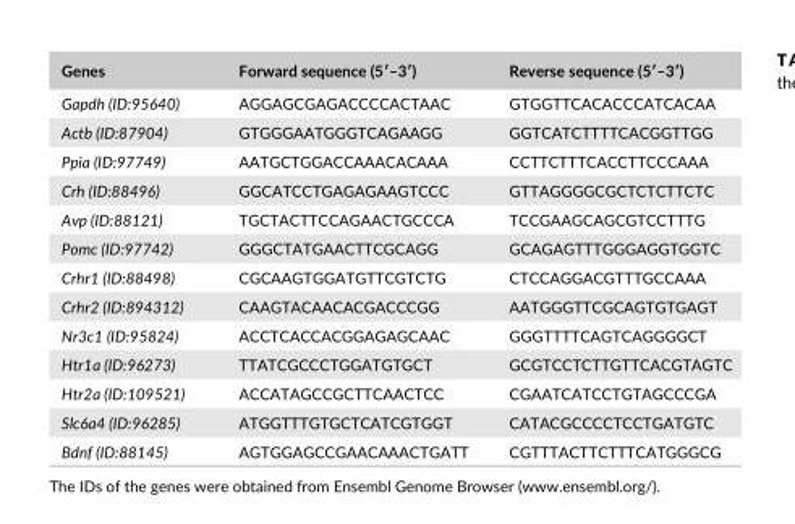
<table><thead><tr><td>Genes</td><td>Forward sequence (5′–3′)</td><td>Reverse sequence (5′–3′)</td></tr></thead><tbody><tr><td>Gapdh (ID:95640)</td><td>AGGAGCGAGACCCCACTAAC</td><td>GTGGTTCACACCCATCACAA</td></tr><tr><td>Actb (ID:87904)</td><td>GTGGGAATGGGTCAGAAGG</td><td>GGTCATCTTTTCACGGTTGG</td></tr><tr><td>Ppia (ID:97749)</td><td>AATGCTGGACCAAACACAAA</td><td>CCTTCTTTCACCTTCCCAAA</td></tr><tr><td>Crh (ID:88496)</td><td>GGCATCCTGAGAGAAGTCCC</td><td>GTTAGGGGCGCTCTCTTCTC</td></tr><tr><td>Avp (ID:88121)</td><td>TGCTACTTCCAGAACTGCCCA</td><td>TCCGAAGCAGCGTCCTTTG</td></tr><tr><td>Pomc (ID:97742)</td><td>GGGCTATGAACTTCGCAGG</td><td>GCAGAGTTTGGGAGGTGGTC</td></tr><tr><td>Crhr1 (ID:88498)</td><td>CGCAAGTGGATGTTCGTCTG</td><td>CTCCAGGACGTTTGCCAAA</td></tr><tr><td>Crhr2 (ID:894312)</td><td>CAAGTACAACACGACCCGG</td><td>AATGGGTTCGCAGTGTGAGT</td></tr><tr><td>Nr3c1 (ID:95824)</td><td>ACCTCACCACGGAGAGCAAC</td><td>GGGTTTTCAGTCAGGGGCT</td></tr><tr><td>Htr1a (ID:96273)</td><td>TTATCGCCCTGGATGTGCT</td><td>GCGTCCTCTTGTTCACGTAGTC</td></tr><tr><td>Htr2a (ID:109521)</td><td>ACCATAGCCGCTTCAACTCC</td><td>CGAATCATCCTGTAGCCCGA</td></tr><tr><td>Slc6a4 (ID:96285)</td><td>ATGGTTTGTGCTCATCGTGGT</td><td>CATACGCCCCTCCTGATGTC</td></tr><tr><td>Bdnf (ID:88145)</td><td>AGTGGAGCCGAACAAACTGATT</td><td>CGTTTACTTCTTTCATGGGCG</td></tr></tbody></table>